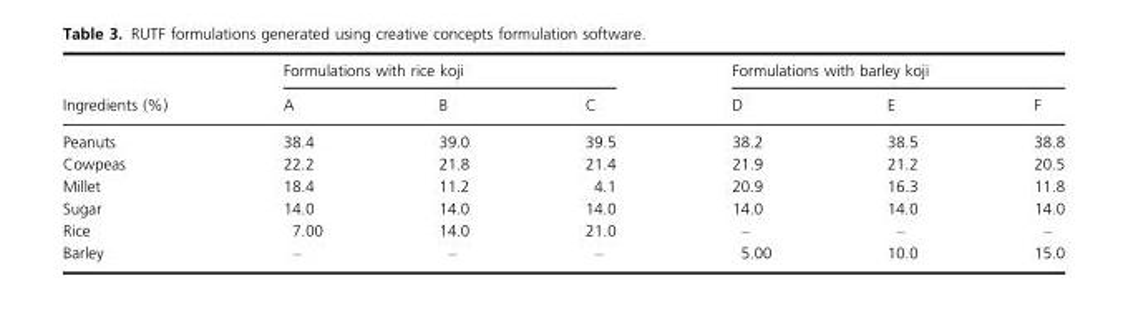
<table><thead><tr><td rowspan="2">Ingredients (%)</td><td colspan="3">Formulations with rice koji</td><td colspan="3">Formulations with barley koji</td></tr><tr><td>A</td><td>B</td><td>C</td><td>D</td><td>E</td><td>F</td></tr></thead><tbody><tr><td>Peanuts</td><td>38.4</td><td>39.0</td><td>39.5</td><td>38.2</td><td>38.5</td><td>38.8</td></tr><tr><td>Cowpeas</td><td>22.2</td><td>21.8</td><td>21.4</td><td>21.9</td><td>21.2</td><td>20.5</td></tr><tr><td>Millet</td><td>18.4</td><td>11.2</td><td>4.1</td><td>20.9</td><td>16.3</td><td>11.8</td></tr><tr><td>Sugar</td><td>14.0</td><td>14.0</td><td>14.0</td><td>14.0</td><td>14.0</td><td>14.0</td></tr><tr><td>Rice</td><td>7.00</td><td>14.0</td><td>21.0</td><td>–</td><td>–</td><td>–</td></tr><tr><td>Barley</td><td>–</td><td>–</td><td>–</td><td>5.00</td><td>10.0</td><td>15.0</td></tr></tbody></table>